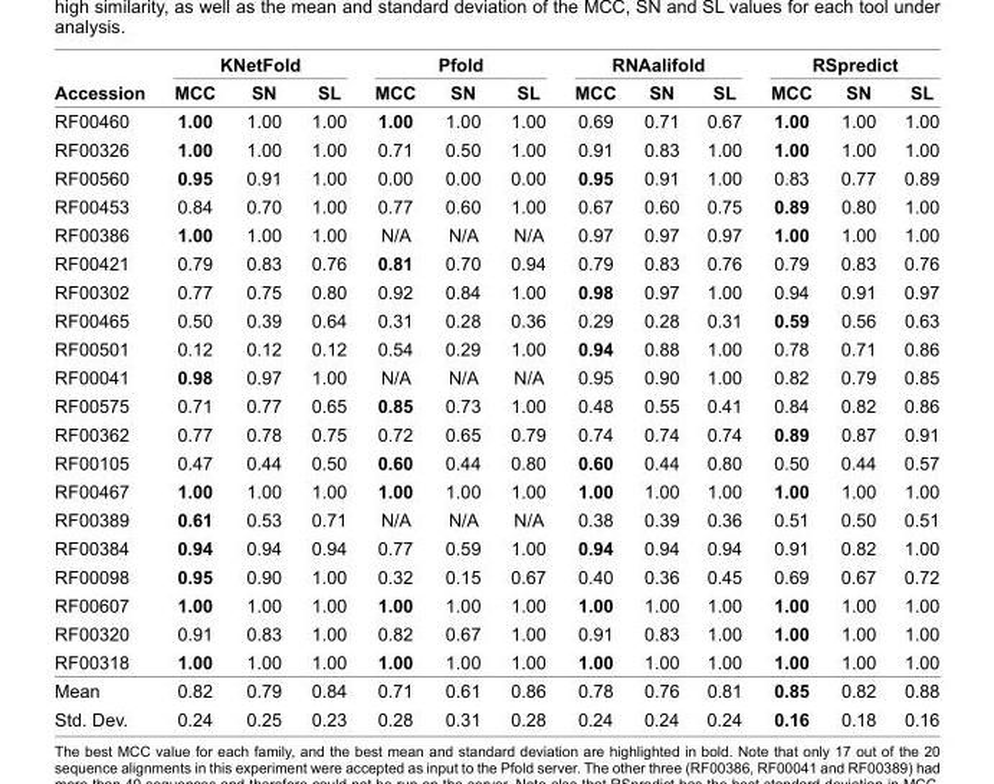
<table><thead><tr><td rowspan="2">Accession</td><td colspan="3">KNetFold</td><td colspan="3">Pfold</td><td colspan="3">RNAalifold</td><td colspan="3">RSpredict</td></tr><tr><td>MCC</td><td>SN</td><td>SL</td><td>MCC</td><td>SN</td><td>SL</td><td>MCC</td><td>SN</td><td>SL</td><td>MCC</td><td>SN</td><td>SL</td></tr></thead><tbody><tr><td>RF00460</td><td>1.00</td><td>1.00</td><td>1.00</td><td>1.00</td><td>1.00</td><td>1.00</td><td>0.69</td><td>0.71</td><td>0.67</td><td>1.00</td><td>1.00</td><td>1.00</td></tr><tr><td>RF00326</td><td>1.00</td><td>1.00</td><td>1.00</td><td>0.71</td><td>0.50</td><td>1.00</td><td>0.91</td><td>0.83</td><td>1.00</td><td>1.00</td><td>1.00</td><td>1.00</td></tr><tr><td>RF00560</td><td>0.95</td><td>0.91</td><td>1.00</td><td>0.00</td><td>0.00</td><td>0.00</td><td>0.95</td><td>0.91</td><td>1.00</td><td>0.83</td><td>0.77</td><td>0.89</td></tr><tr><td>RF00453</td><td>0.84</td><td>0.70</td><td>1.00</td><td>0.77</td><td>0.60</td><td>1.00</td><td>0.67</td><td>0.60</td><td>0.75</td><td>0.89</td><td>0.80</td><td>1.00</td></tr><tr><td>RF00386</td><td>1.00</td><td>1.00</td><td>1.00</td><td>N/A</td><td>N/A</td><td>N/A</td><td>0.97</td><td>0.97</td><td>0.97</td><td>1.00</td><td>1.00</td><td>1.00</td></tr><tr><td>RF00421</td><td>0.79</td><td>0.83</td><td>0.76</td><td>0.81</td><td>0.70</td><td>0.94</td><td>0.79</td><td>0.83</td><td>0.76</td><td>0.79</td><td>0.83</td><td>0.76</td></tr><tr><td>RF00302</td><td>0.77</td><td>0.75</td><td>0.80</td><td>0.92</td><td>0.84</td><td>1.00</td><td>0.98</td><td>0.97</td><td>1.00</td><td>0.94</td><td>0.91</td><td>0.97</td></tr><tr><td>RF00465</td><td>0.50</td><td>0.39</td><td>0.64</td><td>0.31</td><td>0.28</td><td>0.36</td><td>0.29</td><td>0.28</td><td>0.31</td><td>0.59</td><td>0.56</td><td>0.63</td></tr><tr><td>RF00501</td><td>0.12</td><td>0.12</td><td>0.12</td><td>0.54</td><td>0.29</td><td>1.00</td><td>0.94</td><td>0.88</td><td>1.00</td><td>0.78</td><td>0.71</td><td>0.86</td></tr><tr><td>RF00041</td><td>0.98</td><td>0.97</td><td>1.00</td><td>N/A</td><td>N/A</td><td>N/A</td><td>0.95</td><td>0.90</td><td>1.00</td><td>0.82</td><td>0.79</td><td>0.85</td></tr><tr><td>RF00575</td><td>0.71</td><td>0.77</td><td>0.65</td><td>0.85</td><td>0.73</td><td>1.00</td><td>0.48</td><td>0.55</td><td>0.41</td><td>0.84</td><td>0.82</td><td>0.86</td></tr><tr><td>RF00362</td><td>0.77</td><td>0.78</td><td>0.75</td><td>0.72</td><td>0.65</td><td>0.79</td><td>0.74</td><td>0.74</td><td>0.74</td><td>0.89</td><td>0.87</td><td>0.91</td></tr><tr><td>RF00105</td><td>0.47</td><td>0.44</td><td>0.50</td><td>0.60</td><td>0.44</td><td>0.80</td><td>0.60</td><td>0.44</td><td>0.80</td><td>0.50</td><td>0.44</td><td>0.57</td></tr><tr><td>RF00467</td><td>1.00</td><td>1.00</td><td>1.00</td><td>1.00</td><td>1.00</td><td>1.00</td><td>1.00</td><td>1.00</td><td>1.00</td><td>1.00</td><td>1.00</td><td>1.00</td></tr><tr><td>RF00389</td><td>0.61</td><td>0.53</td><td>0.71</td><td>N/A</td><td>N/A</td><td>N/A</td><td>0.38</td><td>0.39</td><td>0.36</td><td>0.51</td><td>0.50</td><td>0.51</td></tr><tr><td>RF00384</td><td>0.94</td><td>0.94</td><td>0.94</td><td>0.77</td><td>0.59</td><td>1.00</td><td>0.94</td><td>0.94</td><td>0.94</td><td>0.91</td><td>0.82</td><td>1.00</td></tr><tr><td>RF00098</td><td>0.95</td><td>0.90</td><td>1.00</td><td>0.32</td><td>0.15</td><td>0.67</td><td>0.40</td><td>0.36</td><td>0.45</td><td>0.69</td><td>0.67</td><td>0.72</td></tr><tr><td>RF00607</td><td>1.00</td><td>1.00</td><td>1.00</td><td>1.00</td><td>1.00</td><td>1.00</td><td>1.00</td><td>1.00</td><td>1.00</td><td>1.00</td><td>1.00</td><td>1.00</td></tr><tr><td>RF00320</td><td>0.91</td><td>0.83</td><td>1.00</td><td>0.82</td><td>0.67</td><td>1.00</td><td>0.91</td><td>0.83</td><td>1.00</td><td>1.00</td><td>1.00</td><td>1.00</td></tr><tr><td>RF00318</td><td>1.00</td><td>1.00</td><td>1.00</td><td>1.00</td><td>1.00</td><td>1.00</td><td>1.00</td><td>1.00</td><td>1.00</td><td>1.00</td><td>1.00</td><td>1.00</td></tr><tr><td>Mean</td><td>0.82</td><td>0.79</td><td>0.84</td><td>0.71</td><td>0.61</td><td>0.86</td><td>0.78</td><td>0.76</td><td>0.81</td><td>0.85</td><td>0.82</td><td>0.88</td></tr><tr><td>Std. Dev.</td><td>0.24</td><td>0.25</td><td>0.23</td><td>0.28</td><td>0.31</td><td>0.28</td><td>0.24</td><td>0.24</td><td>0.24</td><td>0.16</td><td>0.18</td><td>0.16</td></tr></tbody></table>